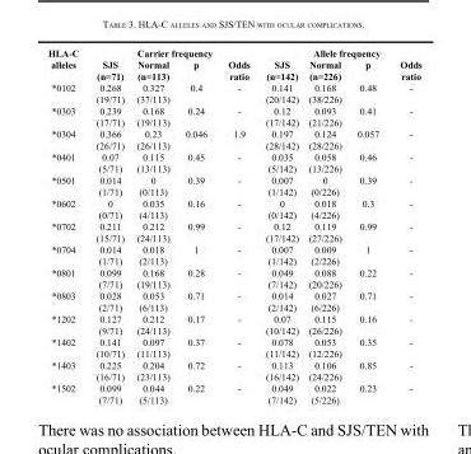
<table><tbody><tr><td rowspan="2">HLA-C alleles</td><td colspan="4">Carrier frequency</td><td colspan="4">Allele frequency</td></tr><tr><td>SJS (n=71)</td><td>Normal (n=113)</td><td>p</td><td>Odds ratio</td><td>SJS (n=142)</td><td>Normal (n=226)</td><td>p</td><td>Odds ratio</td></tr><tr><td rowspan="2">*0102</td><td>0.268</td><td>0.327</td><td>0.4</td><td>-</td><td>0.141</td><td>0.168</td><td>0.48</td><td>-</td></tr><tr><td>(19/71)</td><td>(37/113)</td><td></td><td></td><td>(20/142)</td><td>(38/226)</td><td></td><td></td></tr><tr><td rowspan="2">*0303</td><td>0.239</td><td>0.168</td><td>0.24</td><td>-</td><td>0.12</td><td>0.093</td><td>0.41</td><td>-</td></tr><tr><td>(17/71)</td><td>(19/113)</td><td></td><td></td><td>(17/142)</td><td>(21/226)</td><td></td><td></td></tr><tr><td rowspan="2">*0304</td><td>0.366</td><td>0.23</td><td>0.046</td><td>1.9</td><td>0.197</td><td>0.124</td><td>0.057</td><td>-</td></tr><tr><td>(26/71)</td><td>(26/113)</td><td></td><td></td><td>(28/142)</td><td>(28/226)</td><td></td><td></td></tr><tr><td rowspan="2">*0401</td><td>0.07</td><td>0.115</td><td>0.45</td><td>-</td><td>0.035</td><td>0.058</td><td>0.46</td><td>-</td></tr><tr><td>(5/71)</td><td>(13/113)</td><td></td><td></td><td>(5/142)</td><td>(13/226)</td><td></td><td></td></tr><tr><td rowspan="2">*0501</td><td>0.014</td><td>0</td><td>0.39</td><td>-</td><td>0.007</td><td>0</td><td>0.39</td><td>-</td></tr><tr><td>(1/71)</td><td>(0/113)</td><td></td><td></td><td>(1/142)</td><td>(0/226)</td><td></td><td></td></tr><tr><td rowspan="2">*0602</td><td>0</td><td>0.035</td><td>0.16</td><td>-</td><td>0</td><td>0.018</td><td>0.3</td><td>-</td></tr><tr><td>(0/71)</td><td>(4/113)</td><td></td><td></td><td>(0/142)</td><td>(4/226)</td><td></td><td></td></tr><tr><td rowspan="2">*0702</td><td>0.211</td><td>0.212</td><td>0.99</td><td>-</td><td>0.12</td><td>0.119</td><td>0.99</td><td>-</td></tr><tr><td>(15/71)</td><td>(24/113)</td><td></td><td></td><td>(17/142)</td><td>(27/226)</td><td></td><td></td></tr><tr><td rowspan="2">*0704</td><td>0.014</td><td>0.018</td><td>1</td><td>-</td><td>0.007</td><td>0.009</td><td>1</td><td>-</td></tr><tr><td>(1/71)</td><td>(2/113)</td><td></td><td></td><td>(1/142)</td><td>(2/226)</td><td></td><td></td></tr><tr><td rowspan="2">*0801</td><td>0.099</td><td>0.168</td><td>0.28</td><td>-</td><td>0.049</td><td>0.088</td><td>0.22</td><td>-</td></tr><tr><td>(7/71)</td><td>(19/113)</td><td></td><td></td><td>(7/142)</td><td>(20/226)</td><td></td><td></td></tr><tr><td rowspan="2">*0803</td><td>0.028</td><td>0.053</td><td>0.71</td><td>-</td><td>0.014</td><td>0.027</td><td>0.71</td><td>-</td></tr><tr><td>(2/71)</td><td>(6/113)</td><td></td><td></td><td>(2/142)</td><td>(6/226)</td><td></td><td></td></tr><tr><td rowspan="2">*1202</td><td>0.127</td><td>0.212</td><td>0.17</td><td>-</td><td>0.07</td><td>0.115</td><td>0.16</td><td>-</td></tr><tr><td>(9/71)</td><td>(24/113)</td><td></td><td></td><td>(10/142)</td><td>(26/226)</td><td></td><td></td></tr><tr><td rowspan="2">*1402</td><td>0.141</td><td>0.097</td><td>0.37</td><td>-</td><td>0.078</td><td>0.053</td><td>0.35</td><td>-</td></tr><tr><td>(10/71)</td><td>(11/113)</td><td></td><td></td><td>(11/142)</td><td>(12/226)</td><td></td><td></td></tr><tr><td rowspan="2">*1403</td><td>0.225</td><td>0.204</td><td>0.72</td><td>-</td><td>0.113</td><td>0.106</td><td>0.85</td><td>-</td></tr><tr><td>(16/71)</td><td>(23/113)</td><td></td><td></td><td>(16/142)</td><td>(24/226)</td><td></td><td></td></tr><tr><td rowspan="2">*1502</td><td>0.099</td><td>0.044</td><td>0.22</td><td>-</td><td>0.049</td><td>0.022</td><td>0.23</td><td>-</td></tr><tr><td>(7/71)</td><td>(5/113)</td><td></td><td></td><td>(7/142)</td><td>(5/226)</td><td></td><td></td></tr></tbody></table>